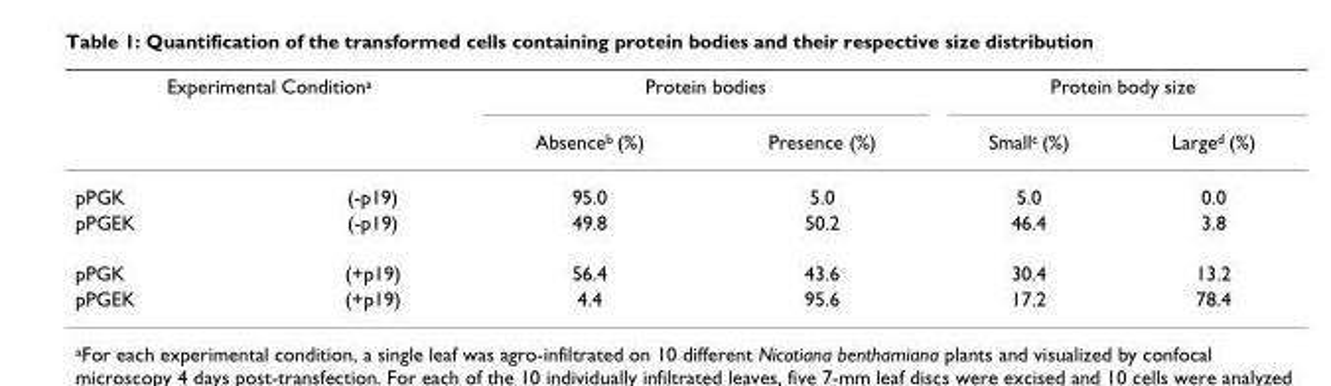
<table><thead><tr><td colspan="2">Experimental Condition<sup>a</sup></td><td colspan="2">Protein bodies</td><td colspan="2">Protein body size</td></tr><tr><td></td><td></td><td>Absence<sup>b</sup> (%)</td><td>Presence (%)</td><td>Small<sup>c</sup> (%)</td><td>Large<sup>d</sup> (%)</td></tr></thead><tbody><tr><td>pPGK</td><td>(-p19)</td><td>95.0</td><td>5.0</td><td>5.0</td><td>0.0</td></tr><tr><td>pPGEK</td><td>(-p19)</td><td>49.8</td><td>50.2</td><td>46.4</td><td>3.8</td></tr><tr><td>pPGK</td><td>(+p19)</td><td>56.4</td><td>43.6</td><td>30.4</td><td>13.2</td></tr><tr><td>pPGEK</td><td>(+p19)</td><td>4.4</td><td>95.6</td><td>17.2</td><td>78.4</td></tr></tbody></table>